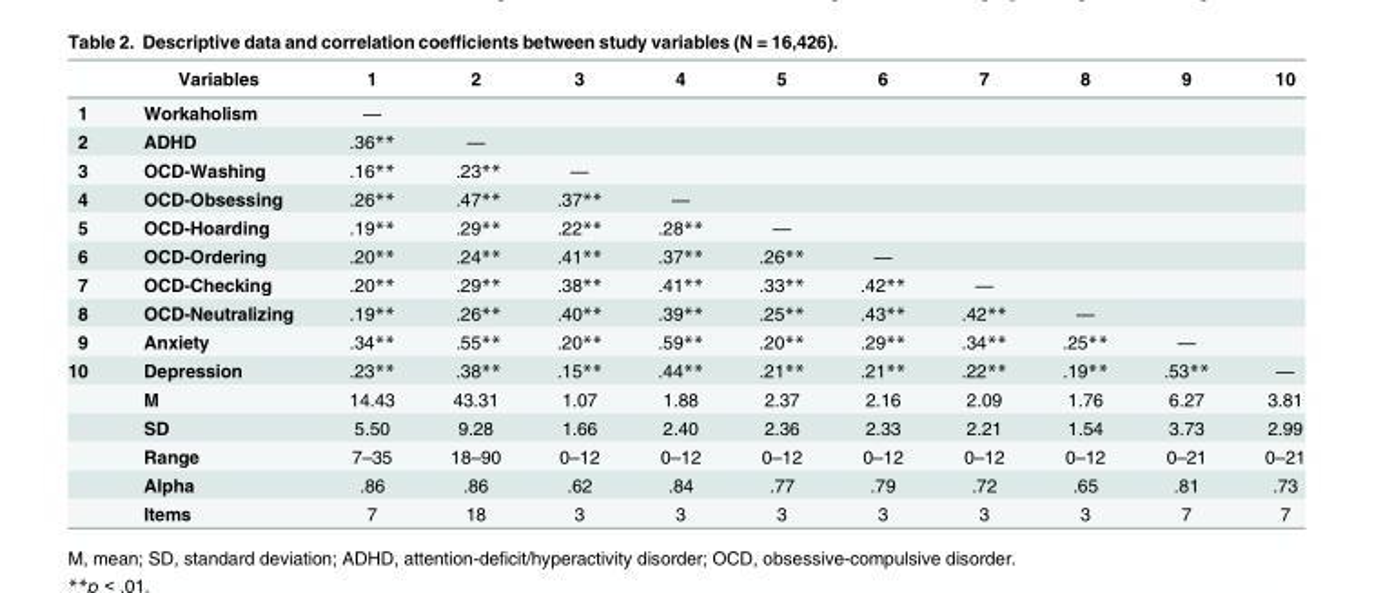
<table><thead><tr><td></td><td>Variables</td><td>1</td><td>2</td><td>3</td><td>4</td><td>5</td><td>6</td><td>7</td><td>8</td><td>9</td><td>10</td></tr></thead><tbody><tr><td>1</td><td>Workaholism</td><td>—</td><td></td><td></td><td></td><td></td><td></td><td></td><td></td><td></td><td></td></tr><tr><td>2</td><td>ADHD</td><td>.36**</td><td>—</td><td></td><td></td><td></td><td></td><td></td><td></td><td></td><td></td></tr><tr><td>3</td><td>OCD-Washing</td><td>.16**</td><td>.23**</td><td>—</td><td></td><td></td><td></td><td></td><td></td><td></td><td></td></tr><tr><td>4</td><td>OCD-Obsessing</td><td>.26**</td><td>.47**</td><td>.37**</td><td>—</td><td></td><td></td><td></td><td></td><td></td><td></td></tr><tr><td>5</td><td>OCD-Hoarding</td><td>.19**</td><td>.29**</td><td>.22**</td><td>.28**</td><td>—</td><td></td><td></td><td></td><td></td><td></td></tr><tr><td>6</td><td>OCD-Ordering</td><td>.20**</td><td>.24**</td><td>.41**</td><td>.37**</td><td>.26**</td><td>—</td><td></td><td></td><td></td><td></td></tr><tr><td>7</td><td>OCD-Checking</td><td>.20**</td><td>.29**</td><td>.38**</td><td>.41**</td><td>.33**</td><td>.42**</td><td>—</td><td></td><td></td><td></td></tr><tr><td>8</td><td>OCD-Neutralizing</td><td>.19**</td><td>.26**</td><td>.40**</td><td>.39**</td><td>.25**</td><td>.43**</td><td>.42**</td><td>—</td><td></td><td></td></tr><tr><td>9</td><td>Anxiety</td><td>.34**</td><td>.55**</td><td>.20**</td><td>.59**</td><td>.20**</td><td>.29**</td><td>.34**</td><td>.25**</td><td>—</td><td></td></tr><tr><td rowspan="6">10</td><td>Depression</td><td>.23**</td><td>.38**</td><td>.15**</td><td>.44**</td><td>.21**</td><td>.21**</td><td>.22**</td><td>.19**</td><td>.53**</td><td>—</td></tr><tr><td>M</td><td>14.43</td><td>43.31</td><td>1.07</td><td>1.88</td><td>2.37</td><td>2.16</td><td>2.09</td><td>1.76</td><td>6.27</td><td>3.81</td></tr><tr><td>SD</td><td>5.50</td><td>9.28</td><td>1.66</td><td>2.40</td><td>2.36</td><td>2.33</td><td>2.21</td><td>1.54</td><td>3.73</td><td>2.99</td></tr><tr><td>Range</td><td>7–35</td><td>18–90</td><td>0–12</td><td>0–12</td><td>0–12</td><td>0–12</td><td>0–12</td><td>0–12</td><td>0–21</td><td>0–21</td></tr><tr><td>Alpha</td><td>.86</td><td>.86</td><td>.62</td><td>.84</td><td>.77</td><td>.79</td><td>.72</td><td>.65</td><td>.81</td><td>.73</td></tr><tr><td>Items</td><td>7</td><td>18</td><td>3</td><td>3</td><td>3</td><td>3</td><td>3</td><td>3</td><td>7</td><td>7</td></tr></tbody></table>